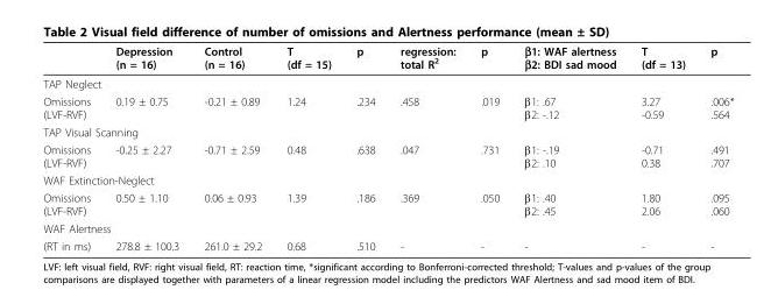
<table><thead><tr><td></td><td>Depression (n = 16)</td><td>Control (n = 16)</td><td>T (df = 15)</td><td>p</td><td>regression: total R<sup>2</sup></td><td>p</td><td>β1: WAF alertness β2: BDI sad mood</td><td>T (df = 13)</td><td>p</td></tr></thead><tbody><tr><td colspan="10">TAP Neglect</td></tr><tr><td>Omissions (LVF-RVF)</td><td>0.19 ± 0.75</td><td>-0.21 ± 0.89</td><td>1.24</td><td>.234</td><td>.458</td><td>.019</td><td>β1: .67 β2: -.12</td><td>3.27 -0.59</td><td>.006* .564</td></tr><tr><td colspan="10">TAP Visual Scanning</td></tr><tr><td>Omissions (LVF-RVF)</td><td>-0.25 ± 2.27</td><td>-0.71 ± 2.59</td><td>0.48</td><td>.638</td><td>.047</td><td>.731</td><td>β1: -.19 β2: .10</td><td>-0.71 0.38</td><td>.491 .707</td></tr><tr><td colspan="10">WAF Extinction-Neglect</td></tr><tr><td>Omissions (LVF-RVF)</td><td>0.50 ± 1.10</td><td>0.06 ± 0.93</td><td>1.39</td><td>.186</td><td>.369</td><td>.050</td><td>β1: .40 β2: .45</td><td>1.80 2.06</td><td>.095 .060</td></tr><tr><td colspan="10">WAF Alertness</td></tr><tr><td>(RT in ms)</td><td>278.8 ± 100.3</td><td>261.0 ± 29.2</td><td>0.68</td><td>.510</td><td>-</td><td>-</td><td>-</td><td>-</td><td>-</td></tr></tbody></table>